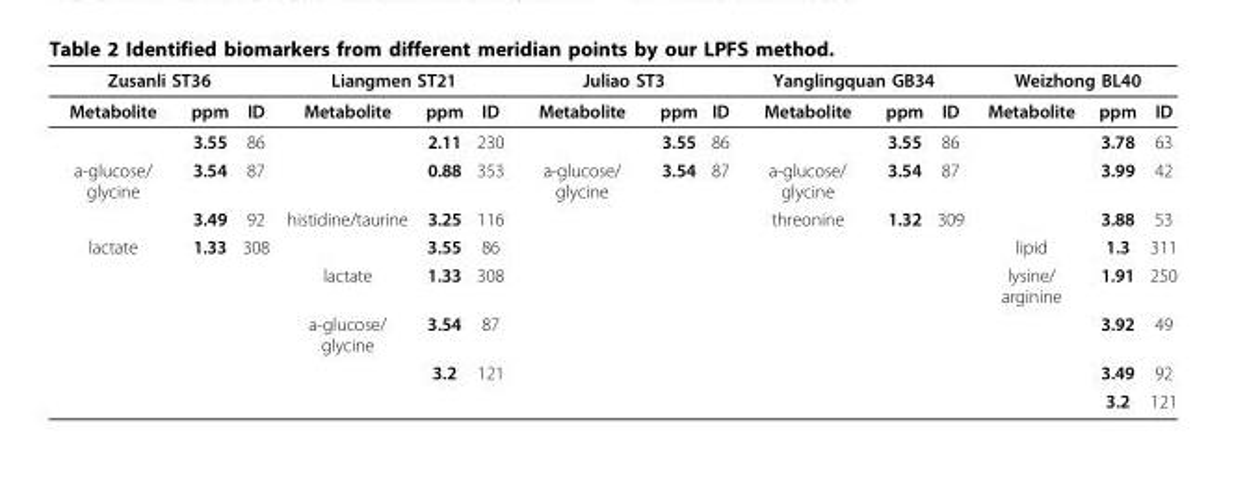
<table><thead><tr><td colspan="3">Zusanli ST36</td><td colspan="3">Liangmen ST21</td><td colspan="3">Juliao ST3</td><td colspan="3">Yanglingquan GB34</td><td colspan="3">Weizhong BL40</td></tr><tr><td>Metabolite</td><td>ppm</td><td>ID</td><td>Metabolite</td><td>ppm</td><td>ID</td><td>Metabolite</td><td>ppm</td><td>ID</td><td>Metabolite</td><td>ppm</td><td>ID</td><td>Metabolite</td><td>ppm</td><td>ID</td></tr></thead><tbody><tr><td></td><td>3.55</td><td>86</td><td></td><td>2.11</td><td>230</td><td></td><td>3.55</td><td>86</td><td></td><td>3.55</td><td>86</td><td></td><td>3.78</td><td>63</td></tr><tr><td rowspan="2">a-glucose/ glycine</td><td>3.54</td><td>87</td><td></td><td>0.88</td><td>353</td><td>a-glucose/ glycine</td><td>3.54</td><td>87</td><td>a-glucose/ glycine</td><td>3.54</td><td>87</td><td></td><td>3.99</td><td>42</td></tr><tr><td>3.49</td><td>92</td><td>histidine/taurine</td><td>3.25</td><td>116</td><td></td><td></td><td></td><td>threonine</td><td>1.32</td><td>309</td><td></td><td>3.88</td><td>53</td></tr><tr><td rowspan="5">lactate</td><td>1.33</td><td>308</td><td></td><td>3.55</td><td>86</td><td></td><td></td><td></td><td></td><td></td><td></td><td>lipid</td><td>1.3</td><td>311</td></tr><tr><td></td><td></td><td>lactate</td><td>1.33</td><td>308</td><td></td><td></td><td></td><td></td><td></td><td></td><td>lysine/ arginine</td><td>1.91</td><td>250</td></tr><tr><td></td><td></td><td>a-glucose/ glycine</td><td>3.54</td><td>87</td><td></td><td></td><td></td><td></td><td></td><td></td><td></td><td>3.92</td><td>49</td></tr><tr><td></td><td></td><td></td><td>3.2</td><td>121</td><td></td><td></td><td></td><td></td><td></td><td></td><td></td><td>3.49</td><td>92</td></tr><tr><td></td><td></td><td></td><td></td><td></td><td></td><td></td><td></td><td></td><td></td><td></td><td></td><td>3.2</td><td>121</td></tr></tbody></table>